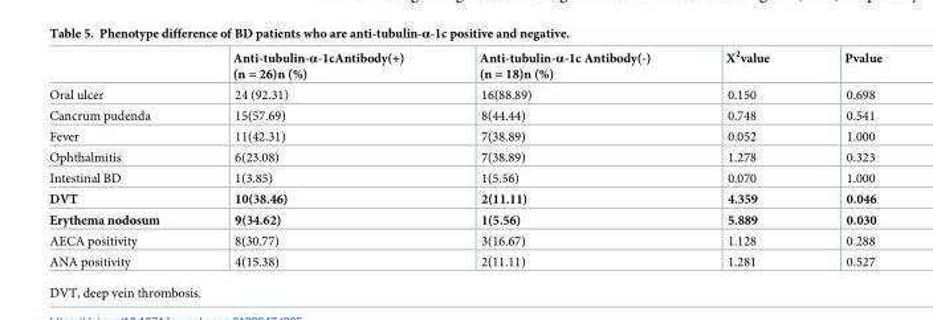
<table><thead><tr><td></td><td>Anti-tubulin-α-1cAntibody(+) (n = 26)n (%)</td><td>Anti-tubulin-α-1c Antibody(-) (n = 18)n (%)</td><td>X<sup>2</sup>value</td><td>Pvalue</td></tr></thead><tbody><tr><td>Oral ulcer</td><td>24 (92.31)</td><td>16(88.89)</td><td>0.150</td><td>0.698</td></tr><tr><td>Cancrum pudenda</td><td>15(57.69)</td><td>8(44.44)</td><td>0.748</td><td>0.541</td></tr><tr><td>Fever</td><td>11(42.31)</td><td>7(38.89)</td><td>0.052</td><td>1.000</td></tr><tr><td>Ophthalmitis</td><td>6(23.08)</td><td>7(38.89)</td><td>1.278</td><td>0.323</td></tr><tr><td>Intestinal BD</td><td>1(3.85)</td><td>1(5.56)</td><td>0.070</td><td>1.000</td></tr><tr><td>DVT</td><td>10(38.46)</td><td>2(11.11)</td><td>4.359</td><td>0.046</td></tr><tr><td>Erythema nodosum</td><td>9(34.62)</td><td>1(5.56)</td><td>5.889</td><td>0.030</td></tr><tr><td>AECA positivity</td><td>8(30.77)</td><td>3(16.67)</td><td>1.128</td><td>0.288</td></tr><tr><td>ANA positivity</td><td>4(15.38)</td><td>2(11.11)</td><td>1.281</td><td>0.527</td></tr></tbody></table>